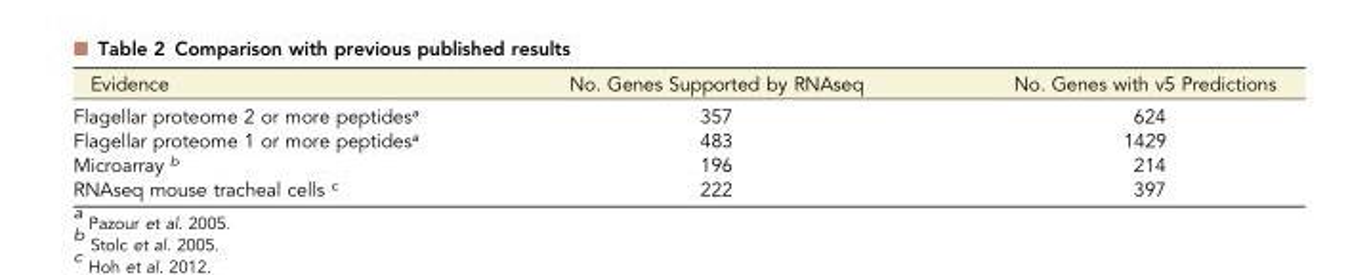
<table><thead><tr><td>Evidence</td><td>No. Genes Supported by RNAseq</td><td>No. Genes with v5 Predictions</td></tr></thead><tbody><tr><td>Flagellar proteome 2 or more peptides<sup>a</sup></td><td>357</td><td>624</td></tr><tr><td>Flagellar proteome 1 or more peptides<sup>a</sup></td><td>483</td><td>1429</td></tr><tr><td>Microarray <sup>b</sup></td><td>196</td><td>214</td></tr><tr><td>RNAseq mouse tracheal cells <sup>c</sup></td><td>222</td><td>397</td></tr></tbody></table>